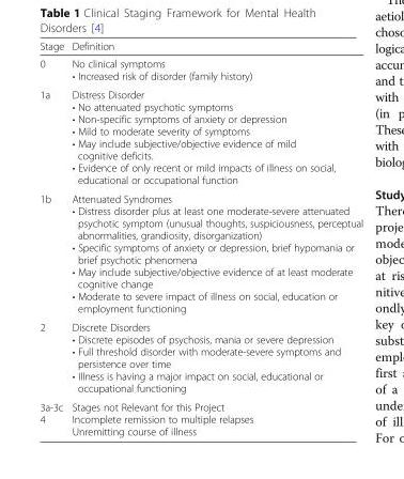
<table><thead><tr><td>Stage</td><td>Definition</td></tr></thead><tbody><tr><td>0</td><td>No clinical symptoms • Increased risk of disorder (family history)</td></tr><tr><td>1a</td><td>Distress Disorder • No attenuated psychotic symptoms • Non-specific symptoms of anxiety or depression • Mild to moderate severity of symptoms • May include subjective/objective evidence of mild cognitive deficits. • Evidence of only recent or mild impacts of illness on social, educational or occupational function</td></tr><tr><td>1b</td><td>Attenuated Syndromes • Distress disorder plus at least one moderate-severe attenuated psychotic symptom (unusual thoughts, suspiciousness, perceptual abnormalities, grandiosity, disorganization) • Specific symptoms of anxiety or depression, brief hypomania or brief psychotic phenomena • May include subjective/objective evidence of at least moderate cognitive change • Moderate to severe impact of illness on social, education or employment functioning</td></tr><tr><td>2</td><td>Discrete Disorders • Discrete episodes of psychosis, mania or severe depression • Full threshold disorder with moderate-severe symptoms and persistence over time • Illness is having a major impact on social, educational or occupational functioning</td></tr><tr><td>3a-3c 4</td><td>Stages not Relevant for this Project Incomplete remission to multiple relapses Unremitting course of illness</td></tr></tbody></table>